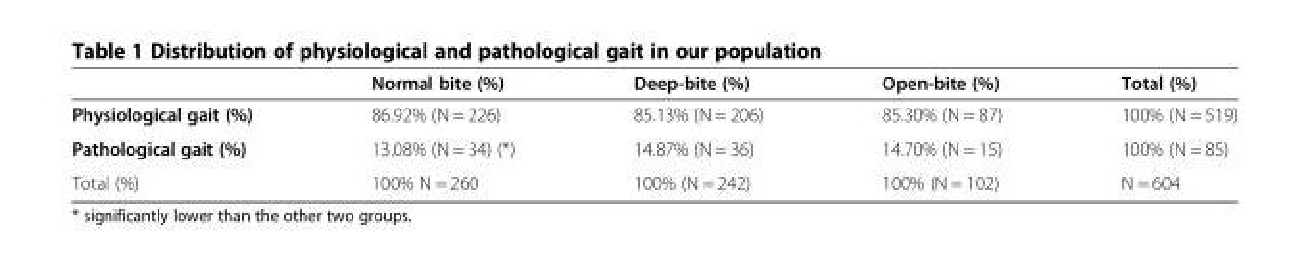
<table><thead><tr><td></td><td>Normal bite (%)</td><td>Deep-bite (%)</td><td>Open-bite (%)</td><td>Total (%)</td></tr></thead><tbody><tr><td>Physiological gait (%)</td><td>86.92% (N = 226)</td><td>85.13% (N = 206)</td><td>85.30% (N = 87)</td><td>100% (N = 519)</td></tr><tr><td>Pathological gait (%)</td><td>13.08% (N = 34) (*)</td><td>14.87% (N = 36)</td><td>14.70% (N = 15)</td><td>100% (N = 85)</td></tr><tr><td>Total (%)</td><td>100% N = 260</td><td>100% (N = 242)</td><td>100% (N = 102)</td><td>N = 604</td></tr></tbody></table>